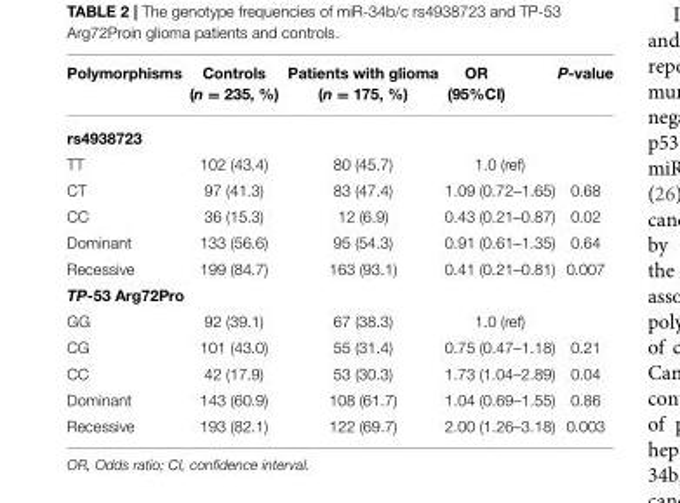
<table><thead><tr><td>Polymorphisms</td><td>Controls (n = 235, %)</td><td>Patients with glioma (n = 175, %)</td><td>OR (95%CI)</td><td>P-value</td></tr></thead><tbody><tr><td colspan="5">rs4938723</td></tr><tr><td>TT</td><td>102 (43.4)</td><td>80 (45.7)</td><td>1.0 (ref)</td><td></td></tr><tr><td>CT</td><td>97 (41.3)</td><td>83 (47.4)</td><td>1.09 (0.72–1.65)</td><td>0.68</td></tr><tr><td>CC</td><td>36 (15.3)</td><td>12 (6.9)</td><td>0.43 (0.21–0.87)</td><td>0.02</td></tr><tr><td>Dominant</td><td>133 (56.6)</td><td>95 (54.3)</td><td>0.91 (0.61–1.35)</td><td>0.64</td></tr><tr><td>Recessive</td><td>199 (84.7)</td><td>163 (93.1)</td><td>0.41 (0.21–0.81)</td><td>0.007</td></tr><tr><td colspan="5">TP-53 Arg72Pro</td></tr><tr><td>GG</td><td>92 (39.1)</td><td>67 (38.3)</td><td>1.0 (ref)</td><td></td></tr><tr><td>CG</td><td>101 (43.0)</td><td>55 (31.4)</td><td>0.75 (0.47–1.18)</td><td>0.21</td></tr><tr><td>CC</td><td>42 (17.9)</td><td>53 (30.3)</td><td>1.73 (1.04–2.89)</td><td>0.04</td></tr><tr><td>Dominant</td><td>143 (60.9)</td><td>108 (61.7)</td><td>1.04 (0.69–1.55)</td><td>0.86</td></tr><tr><td>Recessive</td><td>193 (82.1)</td><td>122 (69.7)</td><td>2.00 (1.26–3.18)</td><td>0.003</td></tr></tbody></table>